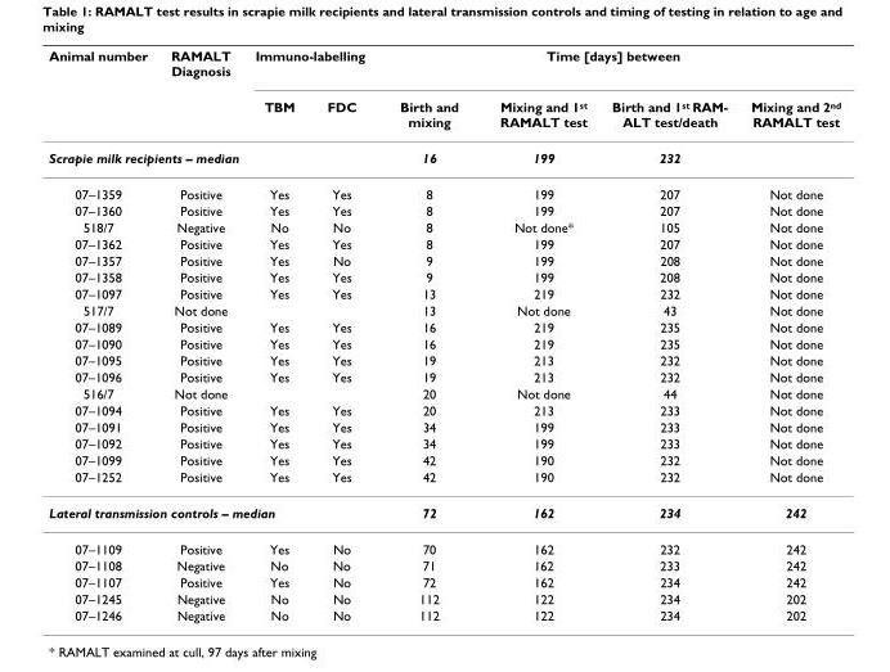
<table><thead><tr><td rowspan="2">Animal number</td><td rowspan="2">RAMALT Diagnosis</td><td colspan="2">Immuno-labelling</td><td colspan="4">Time [days] between</td></tr><tr><td>TBM</td><td>FDC</td><td>Birth and mixing</td><td>Mixing and 1<sup>st</sup> RAMALT test</td><td>Birth and 1st RAM- ALT test/death</td><td>Mixing and 2<sup>nd</sup> RAMALT test</td></tr></thead><tbody><tr><td colspan="4">Scrapie milk recipients – median</td><td>16</td><td>199</td><td>232</td><td></td></tr><tr><td>07–1359</td><td>Positive</td><td>Yes</td><td>Yes</td><td>8</td><td>199</td><td>207</td><td>Not done</td></tr><tr><td>07–1360</td><td>Positive</td><td>Yes</td><td>Yes</td><td>8</td><td>199</td><td>207</td><td>Not done</td></tr><tr><td>518/7</td><td>Negative</td><td>No</td><td>No</td><td>8</td><td>Not done*</td><td>105</td><td>Not done</td></tr><tr><td>07–1362</td><td>Positive</td><td>Yes</td><td>Yes</td><td>8</td><td>199</td><td>207</td><td>Not done</td></tr><tr><td>07–1357</td><td>Positive</td><td>Yes</td><td>No</td><td>9</td><td>199</td><td>208</td><td>Not done</td></tr><tr><td>07–1358</td><td>Positive</td><td>Yes</td><td>Yes</td><td>9</td><td>199</td><td>208</td><td>Not done</td></tr><tr><td>07–1097</td><td>Positive</td><td>Yes</td><td>Yes</td><td>13</td><td>219</td><td>232</td><td>Not done</td></tr><tr><td>517/7</td><td>Not done</td><td></td><td></td><td>13</td><td>Not done</td><td>43</td><td>Not done</td></tr><tr><td>07–1089</td><td>Positive</td><td>Yes</td><td>Yes</td><td>16</td><td>219</td><td>235</td><td>Not done</td></tr><tr><td>07–1090</td><td>Positive</td><td>Yes</td><td>Yes</td><td>16</td><td>219</td><td>235</td><td>Not done</td></tr><tr><td>07–1095</td><td>Positive</td><td>Yes</td><td>Yes</td><td>19</td><td>213</td><td>232</td><td>Not done</td></tr><tr><td>07–1096</td><td>Positive</td><td>Yes</td><td>Yes</td><td>19</td><td>213</td><td>232</td><td>Not done</td></tr><tr><td>516/7</td><td>Not done</td><td></td><td></td><td>20</td><td>Not done</td><td>44</td><td>Not done</td></tr><tr><td>07–1094</td><td>Positive</td><td>Yes</td><td>Yes</td><td>20</td><td>213</td><td>233</td><td>Not done</td></tr><tr><td>07–1091</td><td>Positive</td><td>Yes</td><td>Yes</td><td>34</td><td>199</td><td>233</td><td>Not done</td></tr><tr><td>07–1092</td><td>Positive</td><td>Yes</td><td>Yes</td><td>34</td><td>199</td><td>233</td><td>Not done</td></tr><tr><td>07–1099</td><td>Positive</td><td>Yes</td><td>Yes</td><td>42</td><td>190</td><td>232</td><td>Not done</td></tr><tr><td>07–1252</td><td>Positive</td><td>Yes</td><td>Yes</td><td>42</td><td>190</td><td>232</td><td>Not done</td></tr><tr><td colspan="4">Lateral transmission controls – median</td><td>72</td><td>162</td><td>234</td><td>242</td></tr><tr><td>07–1109</td><td>Positive</td><td>Yes</td><td>No</td><td>70</td><td>162</td><td>232</td><td>242</td></tr><tr><td>07–1108</td><td>Negative</td><td>No</td><td>No</td><td>71</td><td>162</td><td>233</td><td>242</td></tr><tr><td>07–1107</td><td>Positive</td><td>Yes</td><td>No</td><td>72</td><td>162</td><td>234</td><td>242</td></tr><tr><td>07–1245</td><td>Negative</td><td>No</td><td>No</td><td>112</td><td>122</td><td>234</td><td>202</td></tr><tr><td>07–1246</td><td>Negative</td><td>No</td><td>No</td><td>112</td><td>122</td><td>234</td><td>202</td></tr></tbody></table>